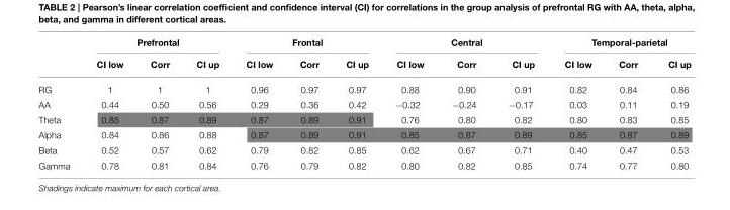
<table><thead><tr><td rowspan="2"></td><td colspan="3">Prefrontal</td><td colspan="3">Frontal</td><td colspan="3">Central</td><td colspan="3">Temporal-parietal</td></tr><tr><td>CI low</td><td>Corr</td><td>CI up</td><td>CI low</td><td>Corr</td><td>CI up</td><td>CI low</td><td>Corr</td><td>CI up</td><td>CI low</td><td>Corr</td><td>CI up</td></tr></thead><tbody><tr><td>RG</td><td>1</td><td>1</td><td>1</td><td>0.96</td><td>0.97</td><td>0.97</td><td>0.88</td><td>0.90</td><td>0.91</td><td>0.82</td><td>0.84</td><td>0.86</td></tr><tr><td>AA</td><td>0.44</td><td>0.50</td><td>0.56</td><td>0.29</td><td>0.36</td><td>0.42</td><td>−0.32</td><td>−0.24</td><td>−0.17</td><td>0.03</td><td>0.11</td><td>0.19</td></tr><tr><td>Theta</td><td>0.85</td><td>0.87</td><td>0.89</td><td>0.87</td><td>0.89</td><td>0.91</td><td>0.76</td><td>0.80</td><td>0.82</td><td>0.80</td><td>0.83</td><td>0.85</td></tr><tr><td>Alpha</td><td>0.84</td><td>0.86</td><td>0.88</td><td>0.87</td><td>0.89</td><td>0.91</td><td>0.85</td><td>0.87</td><td>0.89</td><td>0.85</td><td>0.87</td><td>0.89</td></tr><tr><td>Beta</td><td>0.52</td><td>0.57</td><td>0.62</td><td>0.79</td><td>0.82</td><td>0.85</td><td>0.62</td><td>0.67</td><td>0.71</td><td>0.40</td><td>0.47</td><td>0.53</td></tr><tr><td>Gamma</td><td>0.78</td><td>0.81</td><td>0.84</td><td>0.76</td><td>0.79</td><td>0.82</td><td>0.80</td><td>0.82</td><td>0.85</td><td>0.74</td><td>0.77</td><td>0.80</td></tr></tbody></table>